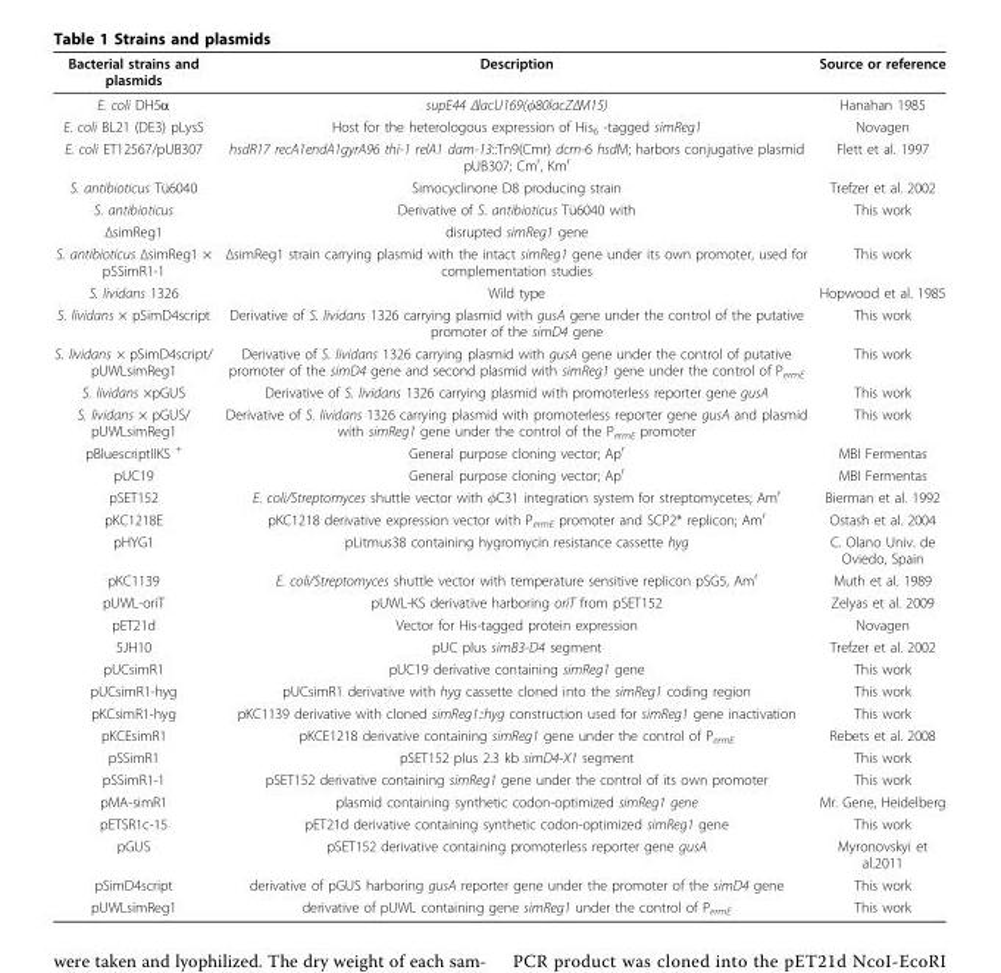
<table><thead><tr><td>Bacterial strains and plasmids</td><td>Description</td><td>Source or reference</td></tr></thead><tbody><tr><td>E. coli DH5α</td><td>supE44 ΔlacU169(φ80lacZΔM15)</td><td>Hanahan 1985</td></tr><tr><td>E. coli BL21 (DE3) pLysS</td><td>Host for the heterologous expression of His<sub>6</sub> -tagged simReg1</td><td>Novagen</td></tr><tr><td>E. coli ET12567/pUB307</td><td>hsdR17 recA1endA1gyrA96 thi-1 relA1 dam-13::Tn9(Cmr) dcm-6 hsdM; harbors conjugative plasmid pUB307; Cm<sup>r</sup>, Km<sup>r</sup></td><td>Flett et al. 1997</td></tr><tr><td>S. antibioticus Tü6040</td><td>Simocyclinone D8 producing strain</td><td>Trefzer et al. 2002</td></tr><tr><td>S. antibioticus</td><td>Derivative of S. antibioticus Tü6040 with</td><td>This work</td></tr><tr><td>ΔsimReg1</td><td>disrupted simReg1 gene</td><td></td></tr><tr><td>S. antibioticus ΔsimReg1 × pSSimR1-1</td><td>ΔsimReg1 strain carrying plasmid with the intact simReg1 gene under its own promoter, used for complementation studies</td><td>This work</td></tr><tr><td>S. lividans 1326</td><td>Wild type</td><td>Hopwood et al. 1985</td></tr><tr><td>S. lividans × pSimD4script</td><td>Derivative of S. lividans 1326 carrying plasmid with gusA gene under the control of the putative promoter of the simD4 gene</td><td>This work</td></tr><tr><td>S. lividans × pSimD4script/ pUWLsimReg1</td><td>Derivative of S. lividans 1326 carrying plasmid with gusA gene under the control of putative promoter of the simD4 gene and second plasmid with simReg1 gene under the control of P<sub>ermE</sub></td><td>This work</td></tr><tr><td>S. lividans ×pGUS</td><td>Derivative of S. lividans 1326 carrying plasmid with promoterless reporter gene gusA</td><td>This work</td></tr><tr><td>S. lividans × pGUS/ pUWLsimReg1</td><td>Derivative of S. lividans 1326 carrying plasmid with promoterless reporter gene gusA and plasmid with simReg1 gene under the control of the P<sub>ermE</sub> promoter</td><td>This work</td></tr><tr><td>pBluescriptIIKS <sup>+</sup></td><td>General purpose cloning vector; Ap<sup>r</sup></td><td>MBI Fermentas</td></tr><tr><td>pUC19</td><td>General purpose cloning vector; Ap<sup>r</sup></td><td>MBI Fermentas</td></tr><tr><td>pSET152</td><td>E. coli/Streptomyces shuttle vector with φC31 integration system for streptomycetes; Am<sup>r</sup></td><td>Bierman et al. 1992</td></tr><tr><td>pKC1218E</td><td>pKC1218 derivative expression vector with P<sub>ermE</sub> promoter and SCP2* replicon; Am<sup>r</sup></td><td>Ostash et al. 2004</td></tr><tr><td>pHYG1</td><td>pLitmus38 containing hygromycin resistance cassette hyg</td><td>C. Olano Univ. de Oviedo, Spain</td></tr><tr><td>pKC1139</td><td>E. coli/Streptomyces shuttle vector with temperature sensitive replicon pSG5, Am<sup>r</sup></td><td>Muth et al. 1989</td></tr><tr><td>pUWL-oriT</td><td>pUWL-KS derivative harboring oriT from pSET152</td><td>Zelyas et al. 2009</td></tr><tr><td>pET21d</td><td>Vector for His-tagged protein expression</td><td>Novagen</td></tr><tr><td>5JH10</td><td>pUC plus simB3-D4 segment</td><td>Trefzer et al. 2002</td></tr><tr><td>pUCsimR1</td><td>pUC19 derivative containing simReg1 gene</td><td>This work</td></tr><tr><td>pUCsimR1-hyg</td><td>pUCsimR1 derivative with hyg cassette cloned into the simReg1 coding region</td><td>This work</td></tr><tr><td>pKCsimR1-hyg</td><td>pKC1139 derivative with cloned simReg1::hyg construction used for simReg1 gene inactivation</td><td>This work</td></tr><tr><td>pKCEsimR1</td><td>pKCE1218 derivative containing simReg1 gene under the control of P<sub>ermE</sub></td><td>Rebets et al. 2008</td></tr><tr><td>pSSimR1</td><td>pSET152 plus 2.3 kb simD4-X1 segment</td><td>This work</td></tr><tr><td>pSSimR1-1</td><td>pSET152 derivative containing simReg1 gene under the control of its own promoter</td><td>This work</td></tr><tr><td>pMA-simR1</td><td>plasmid containing synthetic codon-optimized simReg1 gene</td><td>Mr. Gene, Heidelberg</td></tr><tr><td>pETSR1c-15</td><td>pET21d derivative containing synthetic codon-optimized simReg1 gene</td><td>This work</td></tr><tr><td>pGUS</td><td>pSET152 derivative containing promoterless reporter gene gusA</td><td>Myronovskyi et al.2011</td></tr><tr><td>pSimD4script</td><td>derivative of pGUS harboring gusA reporter gene under the promoter of the simD4 gene</td><td>This work</td></tr><tr><td>pUWLsimReg1</td><td>derivative of pUWL containing gene simReg1 under the control of P<sub>ermE</sub></td><td>This work</td></tr></tbody></table>